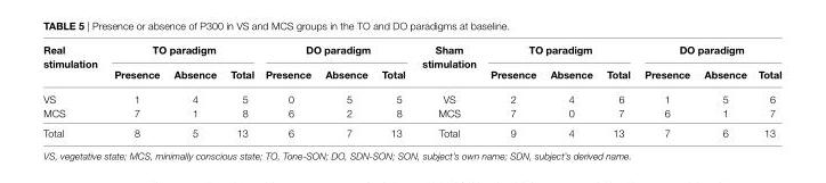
<table><thead><tr><td rowspan="2">real stimulation</td><td colspan="3">TO paradigm</td><td colspan="3">DO paradigm</td><td rowspan="2">sham stimulation</td><td colspan="3">TO paradigm</td><td colspan="3">DO paradigm</td></tr><tr><td>Presence</td><td>absence</td><td>Total</td><td>Presence</td><td>absence</td><td>Total</td><td>Presence</td><td>absence</td><td>Total</td><td>Presence</td><td>absence</td><td>Total</td></tr></thead><tbody><tr><td>VS</td><td>1</td><td>4</td><td>5</td><td>0</td><td>5</td><td>5</td><td>VS</td><td>2</td><td>4</td><td>6</td><td>1</td><td>5</td><td>6</td></tr><tr><td>MCS</td><td>7</td><td>1</td><td>8</td><td>6</td><td>2</td><td>8</td><td>MCS</td><td>7</td><td>0</td><td>7</td><td>6</td><td>1</td><td>7</td></tr><tr><td>Total</td><td>8</td><td>5</td><td>13</td><td>6</td><td>7</td><td>13</td><td>Total</td><td>9</td><td>4</td><td>13</td><td>7</td><td>6</td><td>13</td></tr></tbody></table>